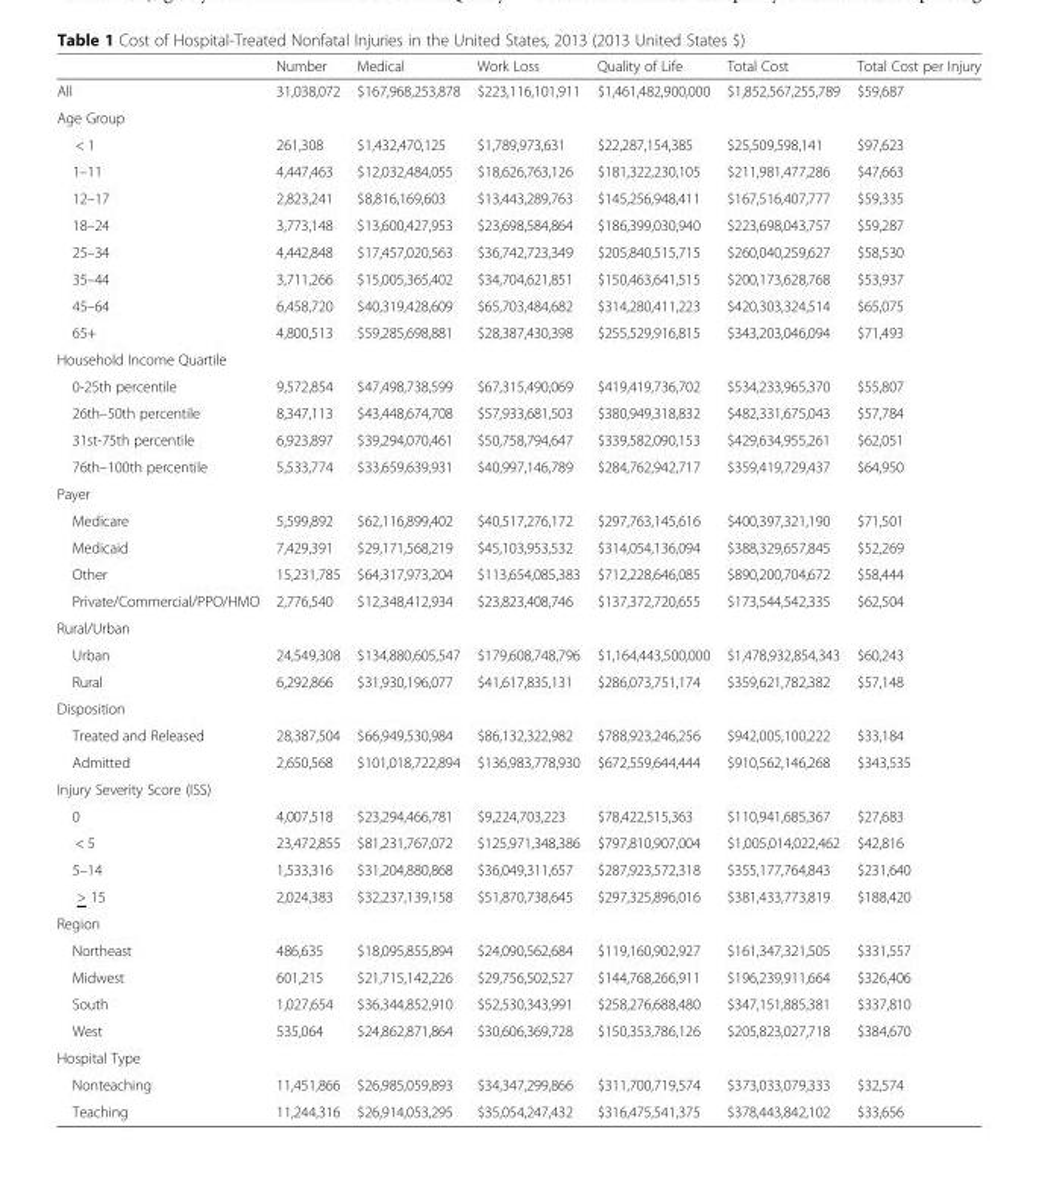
<table><thead><tr><td></td><td>Number</td><td>Medical</td><td>Work Loss</td><td>Quality of Life</td><td>Total Cost</td><td>Total Cost per Injury</td></tr></thead><tbody><tr><td>All</td><td>31,038,072</td><td>$167,968,253,878</td><td>$223,116,101,911</td><td>$1,461,482,900,000</td><td>$1,852,567,255,789</td><td>$59,687</td></tr><tr><td colspan="7">Age Group</td></tr><tr><td>&lt; 1</td><td>261,308</td><td>$1,432,470,125</td><td>$1,789,973,631</td><td>$22,287,154,385</td><td>$25,509,598,141</td><td>$97,623</td></tr><tr><td>1–11</td><td>4,447,463</td><td>$12,032,484,055</td><td>$18,626,763,126</td><td>$181,322,230,105</td><td>$211,981,477,286</td><td>$47,663</td></tr><tr><td>12–17</td><td>2,823,241</td><td>$8,816,169,603</td><td>$13,443,289,763</td><td>$145,256,948,411</td><td>$167,516,407,777</td><td>$59,335</td></tr><tr><td>18–24</td><td>3,773,148</td><td>$13,600,427,953</td><td>$23,698,584,864</td><td>$186,399,030,940</td><td>$223,698,043,757</td><td>$59,287</td></tr><tr><td>25–34</td><td>4,442,848</td><td>$17,457,020,563</td><td>$36,742,723,349</td><td>$205,840,515,715</td><td>$260,040,259,627</td><td>$58,530</td></tr><tr><td>35–44</td><td>3,711,266</td><td>$15,005,365,402</td><td>$34,704,621,851</td><td>$150,463,641,515</td><td>$200,173,628,768</td><td>$53,937</td></tr><tr><td>45–64</td><td>6,458,720</td><td>$40,319,428,609</td><td>$65,703,484,682</td><td>$314,280,411,223</td><td>$420,303,324,514</td><td>$65,075</td></tr><tr><td>65+</td><td>4,800,513</td><td>$59,285,698,881</td><td>$28,387,430,398</td><td>$255,529,916,815</td><td>$343,203,046,094</td><td>$71,493</td></tr><tr><td colspan="7">Household Income Quartile</td></tr><tr><td>0-25th percentile</td><td>9,572,854</td><td>$47,498,738,599</td><td>$67,315,490,069</td><td>$419,419,736,702</td><td>$534,233,965,370</td><td>$55,807</td></tr><tr><td>26th–50th percentile</td><td>8,347,113</td><td>$43,448,674,708</td><td>$57,933,681,503</td><td>$380,949,318,832</td><td>$482,331,675,043</td><td>$57,784</td></tr><tr><td>31st-75th percentile</td><td>6,923,897</td><td>$39,294,070,461</td><td>$50,758,794,647</td><td>$339,582,090,153</td><td>$429,634,955,261</td><td>$62,051</td></tr><tr><td>76th–100th percentile</td><td>5,533,774</td><td>$33,659,639,931</td><td>$40,997,146,789</td><td>$284,762,942,717</td><td>$359,419,729,437</td><td>$64,950</td></tr><tr><td colspan="7">Payer</td></tr><tr><td>Medicare</td><td>5,599,892</td><td>$62,116,899,402</td><td>$40,517,276,172</td><td>$297,763,145,616</td><td>$400,397,321,190</td><td>$71,501</td></tr><tr><td>Medicaid</td><td>7,429,391</td><td>$29,171,568,219</td><td>$45,103,953,532</td><td>$314,054,136,094</td><td>$388,329,657,845</td><td>$52,269</td></tr><tr><td>Other</td><td>15,231,785</td><td>$64,317,973,204</td><td>$113,654,085,383</td><td>$712,228,646,085</td><td>$890,200,704,672</td><td>$58,444</td></tr><tr><td>Private/Commercial/PPO/HMO</td><td>2,776,540</td><td>$12,348,412,934</td><td>$23,823,408,746</td><td>$137,372,720,655</td><td>$173,544,542,335</td><td>$62,504</td></tr><tr><td colspan="7">Rural/Urban</td></tr><tr><td>Urban</td><td>24,549,308</td><td>$134,880,605,547</td><td>$179,608,748,796</td><td>$1,164,443,500,000</td><td>$1,478,932,854,343</td><td>$60,243</td></tr><tr><td>Rural</td><td>6,292,866</td><td>$31,930,196,077</td><td>$41,617,835,131</td><td>$286,073,751,174</td><td>$359,621,782,382</td><td>$57,148</td></tr><tr><td colspan="7">Disposition</td></tr><tr><td>Treated and Released</td><td>28,387,504</td><td>$66,949,530,984</td><td>$86,132,322,982</td><td>$788,923,246,256</td><td>$942,005,100,222</td><td>$33,184</td></tr><tr><td>Admitted</td><td>2,650,568</td><td>$101,018,722,894</td><td>$136,983,778,930</td><td>$672,559,644,444</td><td>$910,562,146,268</td><td>$343,535</td></tr><tr><td colspan="7">Injury Severity Score (ISS)</td></tr><tr><td>0</td><td>4,007,518</td><td>$23,294,466,781</td><td>$9,224,703,223</td><td>$78,422,515,363</td><td>$110,941,685,367</td><td>$27,683</td></tr><tr><td>&lt; 5</td><td>23,472,855</td><td>$81,231,767,072</td><td>$125,971,348,386</td><td>$797,810,907,004</td><td>$1,005,014,022,462</td><td>$42,816</td></tr><tr><td>5–14</td><td>1,533,316</td><td>$31,204,880,868</td><td>$36,049,311,657</td><td>$287,923,572,318</td><td>$355,177,764,843</td><td>$231,640</td></tr><tr><td>&gt; 15</td><td>2,024,383</td><td>$32,237,139,158</td><td>$51,870,738,645</td><td>$297,325,896,016</td><td>$381,433,773,819</td><td>$188,420</td></tr><tr><td colspan="7">Region</td></tr><tr><td>Northeast</td><td>486,635</td><td>$18,095,855,894</td><td>$24,090,562,684</td><td>$119,160,902,927</td><td>$161,347,321,505</td><td>$331,557</td></tr><tr><td>Midwest</td><td>601,215</td><td>$21,715,142,226</td><td>$29,756,502,527</td><td>$144,768,266,911</td><td>$196,239,911,664</td><td>$326,406</td></tr><tr><td>South</td><td>1,027,654</td><td>$36,344,852,910</td><td>$52,530,343,991</td><td>$258,276,688,480</td><td>$347,151,885,381</td><td>$337,810</td></tr><tr><td>West</td><td>535,064</td><td>$24,862,871,864</td><td>$30,606,369,728</td><td>$150,353,786,126</td><td>$205,823,027,718</td><td>$384,670</td></tr><tr><td colspan="7">Hospital Type</td></tr><tr><td>Nonteaching</td><td>11,451,866</td><td>$26,985,059,893</td><td>$34,347,299,866</td><td>$311,700,719,574</td><td>$373,033,079,333</td><td>$32,574</td></tr><tr><td>Teaching</td><td>11,244,316</td><td>$26,914,053,295</td><td>$35,054,247,432</td><td>$316,475,541,375</td><td>$378,443,842,102</td><td>$33,656</td></tr></tbody></table>